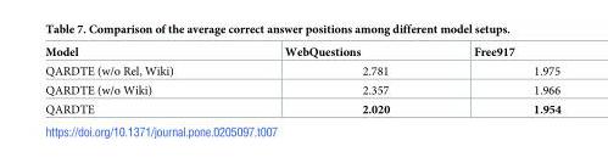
<table><thead><tr><td>Model</td><td>WebQuestions</td><td>Free917</td></tr></thead><tbody><tr><td>QARDTE (w/o Rel, Wiki)</td><td>2.781</td><td>1.975</td></tr><tr><td>QARDTE (w/o Wiki)</td><td>2.357</td><td>1.966</td></tr><tr><td>QARDTE</td><td>2.020</td><td>1.954</td></tr></tbody></table>